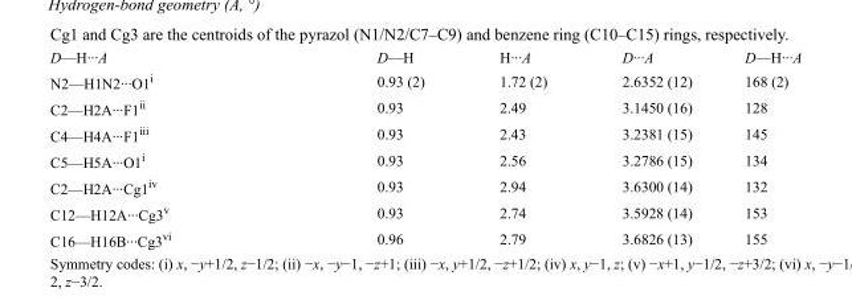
<table><tbody><tr><td>D—H···A</td><td>D—H</td><td>H···A</td><td>D···A</td><td>D—H···A</td></tr><tr><td>N2—H1N2···O1<sup>i</sup></td><td>0.93 (2)</td><td>1.72 (2)</td><td>2.6352 (12)</td><td>168 (2)</td></tr><tr><td>C2—H2A···F1<sup>ii</sup></td><td>0.93</td><td>2.49</td><td>3.1450 (16)</td><td>128</td></tr><tr><td>C4—H4A···F1<sup>iii</sup></td><td>0.93</td><td>2.43</td><td>3.2381 (15)</td><td>145</td></tr><tr><td>C5—H5A···O1<sup>i</sup></td><td>0.93</td><td>2.56</td><td>3.2786 (15)</td><td>134</td></tr><tr><td>C2—H2A···Cg1<sup>iv</sup></td><td>0.93</td><td>2.94</td><td>3.6300 (14)</td><td>132</td></tr><tr><td>C12—H12A···Cg3<sup>v</sup></td><td>0.93</td><td>2.74</td><td>3.5928 (14)</td><td>153</td></tr><tr><td>C16—H16B···Cg3<sup>vi</sup></td><td>0.96</td><td>2.79</td><td>3.6826 (13)</td><td>155</td></tr></tbody></table>